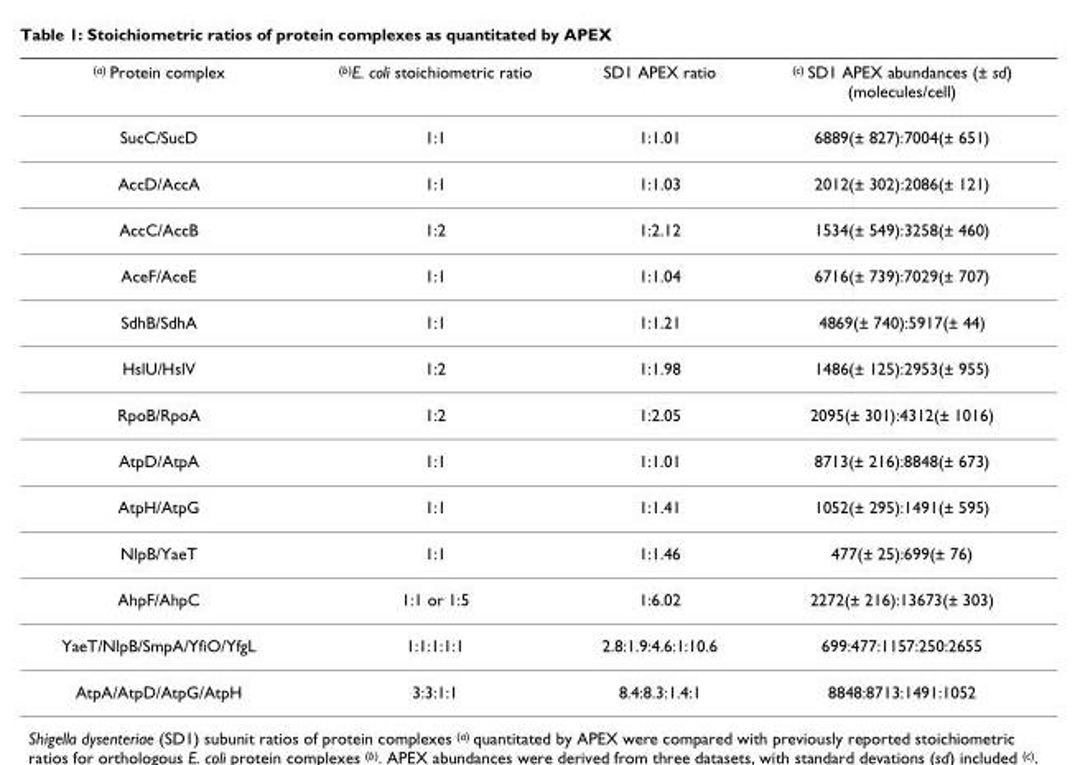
<table><thead><tr><td><sup>(a)</sup> Protein complex</td><td><sup>(b)</sup>E. coli stoichiometric ratio</td><td>SD1 APEX ratio</td><td><sup>(c)</sup> SD1 APEX abundances (± sd) (molecules/cell)</td></tr></thead><tbody><tr><td>SucC/SucD</td><td>1:1</td><td>1:1.01</td><td>6889(± 827):7004(± 651)</td></tr><tr><td>AccD/AccA</td><td>1:1</td><td>1:1.03</td><td>2012(± 302):2086(± 121)</td></tr><tr><td>AccC/AccB</td><td>1:2</td><td>1:2.12</td><td>1534(± 549):3258(± 460)</td></tr><tr><td>AceF/AceE</td><td>1:1</td><td>1:1.04</td><td>6716(± 739):7029(± 707)</td></tr><tr><td>SdhB/SdhA</td><td>1:1</td><td>1:1.21</td><td>4869(± 740):5917(± 44)</td></tr><tr><td>HslU/HslV</td><td>1:2</td><td>1:1.98</td><td>1486(± 125):2953(± 955)</td></tr><tr><td>RpoB/RpoA</td><td>1:2</td><td>1:2.05</td><td>2095(± 301):4312(± 1016)</td></tr><tr><td>AtpD/AtpA</td><td>1:1</td><td>1:1.01</td><td>8713(± 216):8848(± 673)</td></tr><tr><td>AtpH/AtpG</td><td>1:1</td><td>1:1.41</td><td>1052(± 295):1491(± 595)</td></tr><tr><td>NlpB/YaeT</td><td>1:1</td><td>1:1.46</td><td>477(± 25):699(± 76)</td></tr><tr><td>AhpF/AhpC</td><td>1:1 or 1:5</td><td>1:6.02</td><td>2272(± 216):13673(± 303)</td></tr><tr><td>YaeT/NlpB/SmpA/YfiO/YfgL</td><td>1:1:1:1:1</td><td>2.8:1.9:4.6:1:10.6</td><td>699:477:1157:250:2655</td></tr><tr><td>AtpA/AtpD/AtpG/AtpH</td><td>3:3:1:1</td><td>8.4:8.3:1.4:1</td><td>8848:8713:1491:1052</td></tr></tbody></table>